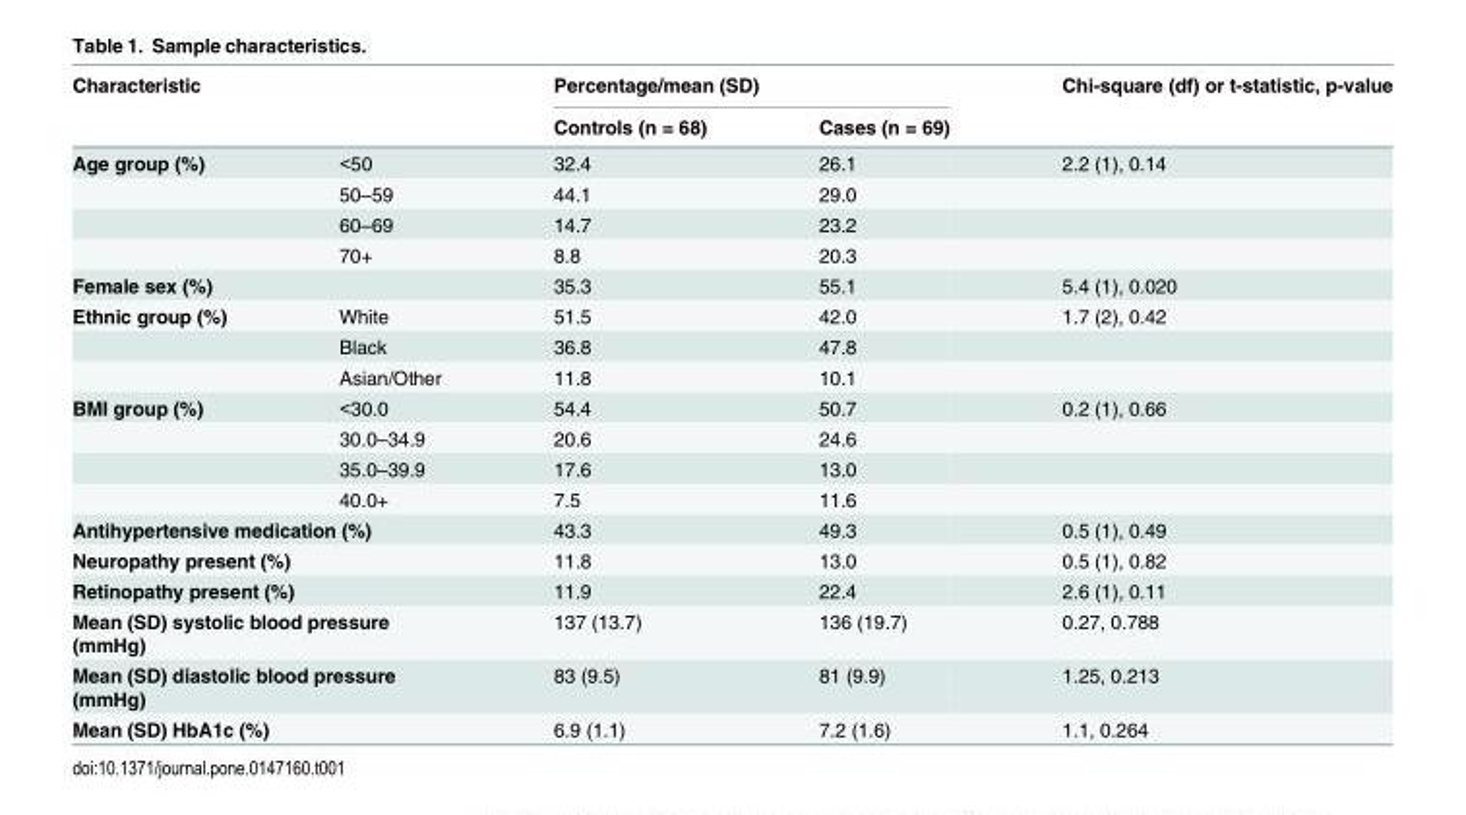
<table><thead><tr><td colspan="2">Characteristic</td><td colspan="2">Percentage/mean (SD)</td><td rowspan="2">Chi-square (df) or t-statistic, p-value</td></tr><tr><td></td><td></td><td>Controls (n = 68)</td><td>Cases (n = 69)</td></tr></thead><tbody><tr><td rowspan="4">Age group (%)</td><td>&lt;50</td><td>32.4</td><td>26.1</td><td>2.2 (1), 0.14</td></tr><tr><td>50–59</td><td>44.1</td><td>29.0</td><td></td></tr><tr><td>60–69</td><td>14.7</td><td>23.2</td><td></td></tr><tr><td>70+</td><td>8.8</td><td>20.3</td><td></td></tr><tr><td>Female sex (%)</td><td></td><td>35.3</td><td>55.1</td><td>5.4 (1), 0.020</td></tr><tr><td rowspan="3">Ethnic group (%)</td><td>White</td><td>51.5</td><td>42.0</td><td>1.7 (2), 0.42</td></tr><tr><td>Black</td><td>36.8</td><td>47.8</td><td></td></tr><tr><td>Asian/Other</td><td>11.8</td><td>10.1</td><td></td></tr><tr><td rowspan="4">BMI group (%)</td><td>&lt;30.0</td><td>54.4</td><td>50.7</td><td>0.2 (1), 0.66</td></tr><tr><td>30.0–34.9</td><td>20.6</td><td>24.6</td><td></td></tr><tr><td>35.0–39.9</td><td>17.6</td><td>13.0</td><td></td></tr><tr><td>40.0+</td><td>7.5</td><td>11.6</td><td></td></tr><tr><td colspan="2">Antihypertensive medication (%)</td><td>43.3</td><td>49.3</td><td>0.5 (1), 0.49</td></tr><tr><td colspan="2">Neuropathy present (%)</td><td>11.8</td><td>13.0</td><td>0.5 (1), 0.82</td></tr><tr><td colspan="2">Retinopathy present (%)</td><td>11.9</td><td>22.4</td><td>2.6 (1), 0.11</td></tr><tr><td colspan="2">Mean (SD) systolic blood pressure (mmHg)</td><td>137 (13.7)</td><td>136 (19.7)</td><td>0.27, 0.788</td></tr><tr><td colspan="2">Mean (SD) diastolic blood pressure (mmHg)</td><td>83 (9.5)</td><td>81 (9.9)</td><td>1.25, 0.213</td></tr><tr><td colspan="2">Mean (SD) HbA1c (%)</td><td>6.9 (1.1)</td><td>7.2 (1.6)</td><td>1.1, 0.264</td></tr></tbody></table>